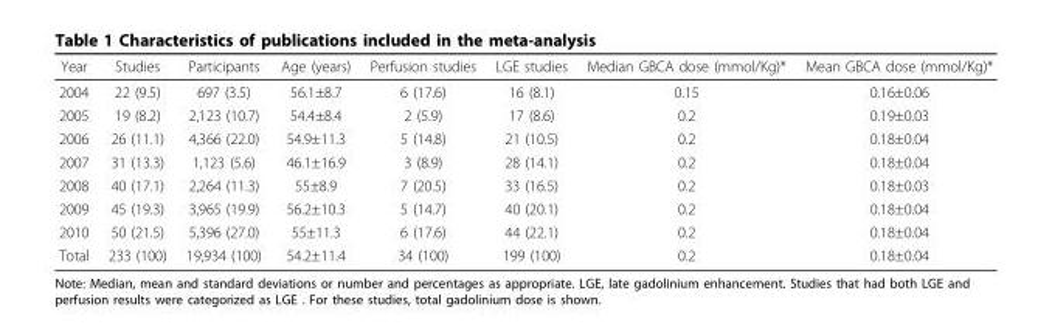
<table><thead><tr><td>Year</td><td>Studies</td><td>Participants</td><td>Age (years)</td><td>Perfusion studies</td><td>LGE studies</td><td>Median GBCA dose (mmol/Kg)*</td><td>Mean GBCA dose (mmol/Kg)*</td></tr></thead><tbody><tr><td>2004</td><td>22 (9.5)</td><td>697 (3.5)</td><td>56.1±8.7</td><td>6 (17.6)</td><td>16 (8.1)</td><td>0.15</td><td>0.16±0.06</td></tr><tr><td>2005</td><td>19 (8.2)</td><td>2,123 (10.7)</td><td>54.4±8.4</td><td>2 (5.9)</td><td>17 (8.6)</td><td>0.2</td><td>0.19±0.03</td></tr><tr><td>2006</td><td>26 (11.1)</td><td>4,366 (22.0)</td><td>54.9±11.3</td><td>5 (14.8)</td><td>21 (10.5)</td><td>0.2</td><td>0.18±0.04</td></tr><tr><td>2007</td><td>31 (13.3)</td><td>1,123 (5.6)</td><td>46.1±16.9</td><td>3 (8.9)</td><td>28 (14.1)</td><td>0.2</td><td>0.18±0.04</td></tr><tr><td>2008</td><td>40 (17.1)</td><td>2,264 (11.3)</td><td>55±8.9</td><td>7 (20.5)</td><td>33 (16.5)</td><td>0.2</td><td>0.18±0.03</td></tr><tr><td>2009</td><td>45 (19.3)</td><td>3,965 (19.9)</td><td>56.2±10.3</td><td>5 (14.7)</td><td>40 (20.1)</td><td>0.2</td><td>0.18±0.04</td></tr><tr><td>2010</td><td>50 (21.5)</td><td>5,396 (27.0)</td><td>55±11.3</td><td>6 (17.6)</td><td>44 (22.1)</td><td>0.2</td><td>0.18±0.04</td></tr><tr><td>Total</td><td>233 (100)</td><td>19,934 (100)</td><td>54.2±11.4</td><td>34 (100)</td><td>199 (100)</td><td>0.2</td><td>0.18±0.04</td></tr></tbody></table>